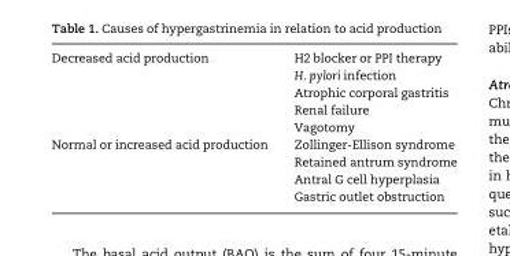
<table><tbody><tr><td rowspan="5">Decreased acid production</td><td>H2 blocker or PPI therapy</td></tr><tr><td>H. pylori infection</td></tr><tr><td>Atrophic corporal gastritis</td></tr><tr><td>Renal failure</td></tr><tr><td>Vagotomy</td></tr><tr><td rowspan="4">Normal or increased acid production</td><td>Zollinger-Ellison syndrome</td></tr><tr><td>Retained antrum syndrome</td></tr><tr><td>Antral G cell hyperplasia</td></tr><tr><td>Gastric outlet obstruction</td></tr></tbody></table>